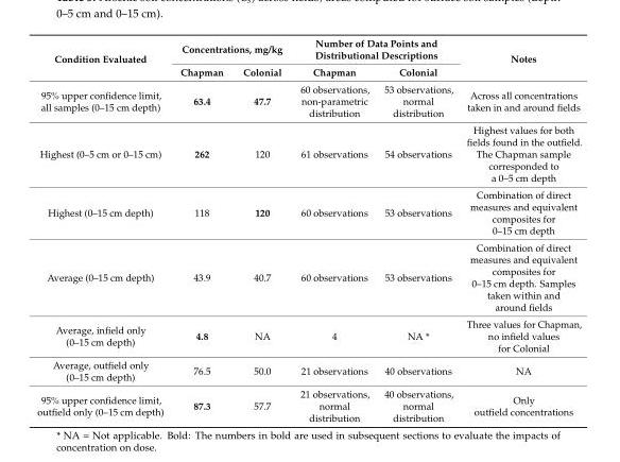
<table><thead><tr><td rowspan="2">Condition Evaluated</td><td colspan="2">Concentrations, mg/kg</td><td colspan="2">Number of Data Points and Distributional Descriptions</td><td rowspan="2">Notes</td></tr><tr><td>Chapman</td><td>Colonial</td><td>Chapman</td><td>Colonial</td></tr></thead><tbody><tr><td>95% upper confidence limit, all samples (0–15 cm depth)</td><td>63.4</td><td>47.7</td><td>60 observations, non-parametric distribution</td><td>53 observations, normal distribution</td><td>Across all concentrations taken in and around fields</td></tr><tr><td>Highest (0–5 cm or 0–15 cm)</td><td>262</td><td>120</td><td>61 observations</td><td>54 observations</td><td>Highest values for both fields found in the outfield. The Chapman sample corresponded to a 0–5 cm depth</td></tr><tr><td>Highest (0–15 cm depth)</td><td>118</td><td>120</td><td>60 observations</td><td>53 observations</td><td>Combination of direct measures and equivalent composites for 0–15 cm depth</td></tr><tr><td>Average (0–15 cm depth)</td><td>43.9</td><td>40.7</td><td>60 observations</td><td>53 observations</td><td>Combination of direct measures and equivalent composites for 0–15 cm depth. Samples taken within and around fields</td></tr><tr><td>Average, infield only (0–15 cm depth)</td><td>4.8</td><td>NA</td><td>4</td><td>NA *</td><td>Three values for Chapman, no infield values for Colonial</td></tr><tr><td>Average, outfield only (0–15 cm depth)</td><td>76.5</td><td>50.0</td><td>21 observations</td><td>40 observations</td><td>NA</td></tr><tr><td>95% upper confidence limit, outfield only (0–15 cm depth)</td><td>87.3</td><td>57.7</td><td>21 observations, normal distribution</td><td>40 observations, normal distribution</td><td>Only outfield concentrations</td></tr></tbody></table>